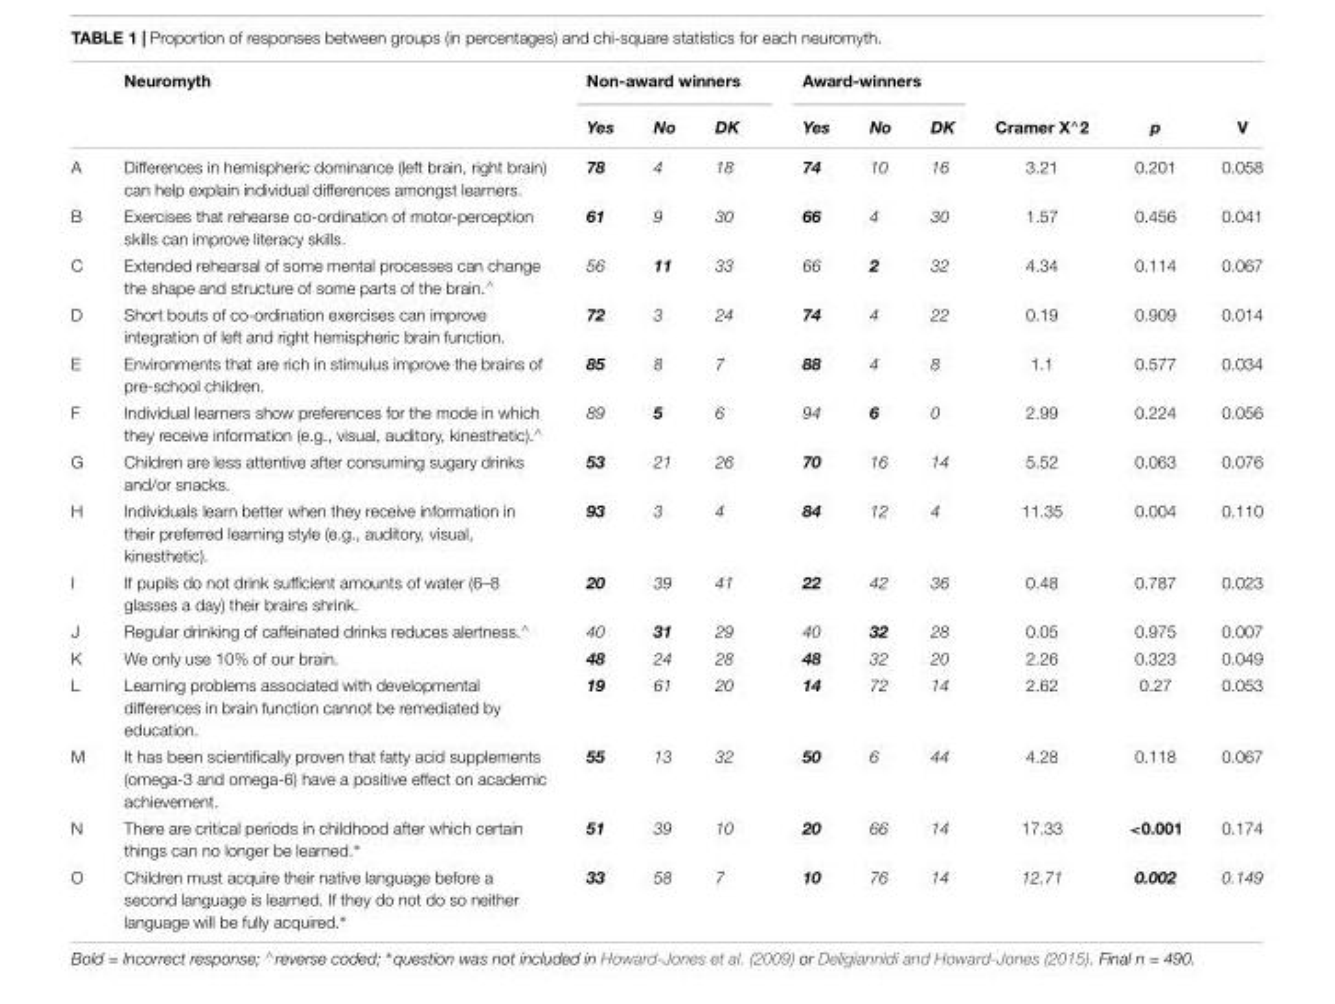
<table><thead><tr><td rowspan="2"></td><td rowspan="2">Neuromyth</td><td colspan="3">Non-award winners</td><td colspan="3">Award-winners</td><td rowspan="2">Cramer X<sup>∧</sup>2</td><td rowspan="2">p</td><td rowspan="2">V</td></tr><tr><td>Yes</td><td>No</td><td>DK</td><td>Yes</td><td>No</td><td>DK</td></tr></thead><tbody><tr><td>A</td><td>Differences in hemispheric dominance (left brain, right brain) can help explain individual differences amongst learners.</td><td>78</td><td>4</td><td>18</td><td>74</td><td>10</td><td>16</td><td>3.21</td><td>0.201</td><td>0.058</td></tr><tr><td>B</td><td>Exercises that rehearse co-ordination of motor-perception skills can improve literacy skills.</td><td>61</td><td>9</td><td>30</td><td>66</td><td>4</td><td>30</td><td>1.57</td><td>0.456</td><td>0.041</td></tr><tr><td>C</td><td>Extended rehearsal of some mental processes can change the shape and structure of some parts of the brain.<sup>∧</sup></td><td>56</td><td>11</td><td>33</td><td>66</td><td>2</td><td>32</td><td>4.34</td><td>0.114</td><td>0.067</td></tr><tr><td>D</td><td>Short bouts of co-ordination exercises can improve integration of left and right hemispheric brain function.</td><td>72</td><td>3</td><td>24</td><td>74</td><td>4</td><td>22</td><td>0.19</td><td>0.909</td><td>0.014</td></tr><tr><td>E</td><td>Environments that are rich in stimulus improve the brains of pre-school children.</td><td>85</td><td>8</td><td>7</td><td>88</td><td>4</td><td>8</td><td>1.1</td><td>0.577</td><td>0.034</td></tr><tr><td>F</td><td>Individual learners show preferences for the mode in which they receive information (e.g., visual, auditory, kinesthetic).<sup>∧</sup></td><td>89</td><td>5</td><td>6</td><td>94</td><td>6</td><td>0</td><td>2.99</td><td>0.224</td><td>0.056</td></tr><tr><td>G</td><td>Children are less attentive after consuming sugary drinks and/or snacks.</td><td>53</td><td>21</td><td>26</td><td>70</td><td>16</td><td>14</td><td>5.52</td><td>0.063</td><td>0.076</td></tr><tr><td>H</td><td>Individuals learn better when they receive information in their preferred learning style (e.g., auditory, visual, kinesthetic).</td><td>93</td><td>3</td><td>4</td><td>84</td><td>12</td><td>4</td><td>11.35</td><td>0.004</td><td>0.110</td></tr><tr><td>I</td><td>If pupils do not drink sufficient amounts of water (6–8 glasses a day) their brains shrink.</td><td>20</td><td>39</td><td>41</td><td>22</td><td>42</td><td>36</td><td>0.48</td><td>0.787</td><td>0.023</td></tr><tr><td>J</td><td>Regular drinking of caffeinated drinks reduces alertness.<sup>∧</sup></td><td>40</td><td>31</td><td>29</td><td>40</td><td>32</td><td>28</td><td>0.05</td><td>0.975</td><td>0.007</td></tr><tr><td>K</td><td>We only use 10% of our brain.</td><td>48</td><td>24</td><td>28</td><td>48</td><td>32</td><td>20</td><td>2.26</td><td>0.323</td><td>0.049</td></tr><tr><td>L</td><td>Learning problems associated with developmental differences in brain function cannot be remediated by education.</td><td>19</td><td>61</td><td>20</td><td>14</td><td>72</td><td>14</td><td>2.62</td><td>0.27</td><td>0.053</td></tr><tr><td>M</td><td>It has been scientifically proven that fatty acid supplements (omega-3 and omega-6) have a positive effect on academic achievement.</td><td>55</td><td>13</td><td>32</td><td>50</td><td>6</td><td>44</td><td>4.28</td><td>0.118</td><td>0.067</td></tr><tr><td>N</td><td>There are critical periods in childhood after which certain things can no longer be learned.∗</td><td>51</td><td>39</td><td>10</td><td>20</td><td>66</td><td>14</td><td>17.33</td><td>&lt;0.001</td><td>0.174</td></tr><tr><td>O</td><td>Children must acquire their native language before a second language is learned. If they do not do so neither language will be fully acquired.∗</td><td>33</td><td>58</td><td>7</td><td>10</td><td>76</td><td>14</td><td>12.71</td><td>0.002</td><td>0.149</td></tr></tbody></table>